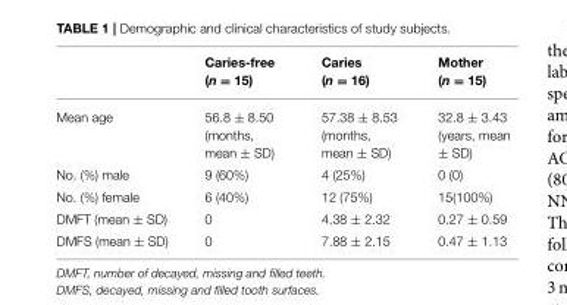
<table><thead><tr><td></td><td>Caries-free (n = 15)</td><td>Caries (n = 16)</td><td>Mother (n = 15)</td></tr></thead><tbody><tr><td>Mean age</td><td>56.8 ± 8.50 (months, mean ± SD)</td><td>57.38 ± 8.53 (months, mean ± SD)</td><td>32.8 ± 3.43 (years, mean ± SD)</td></tr><tr><td>No. (%) male</td><td>9 (60%)</td><td>4 (25%)</td><td>0 (0)</td></tr><tr><td>No. (%) female</td><td>6 (40%)</td><td>12 (75%)</td><td>15(100%)</td></tr><tr><td>DMFT (mean ± SD)</td><td>0</td><td>4.38 ± 2.32</td><td>0.27 ± 0.59</td></tr><tr><td>DMFS (mean ± SD)</td><td>0</td><td>7.88 ± 2.15</td><td>0.47 ± 1.13</td></tr></tbody></table>